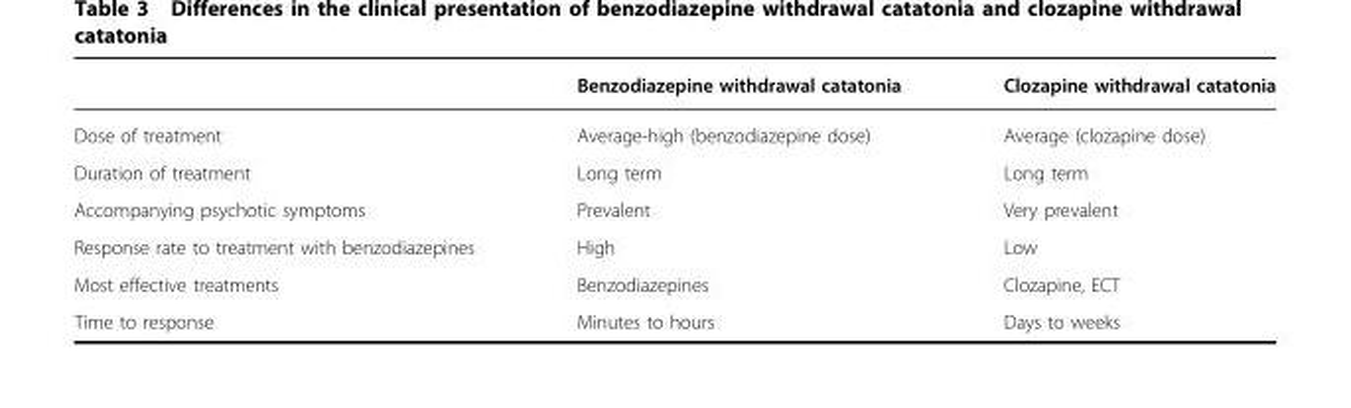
<table><thead><tr><td></td><td>Benzodiazepine withdrawal catatonia</td><td>Clozapine withdrawal catatonia</td></tr></thead><tbody><tr><td>Dose of treatment</td><td>Average-high (benzodiazepine dose)</td><td>Average (clozapine dose)</td></tr><tr><td>Duration of treatment</td><td>Long term</td><td>Long term</td></tr><tr><td>Accompanying psychotic symptoms</td><td>Prevalent</td><td>Very prevalent</td></tr><tr><td>Response rate to treatment with benzodiazepines</td><td>High</td><td>Low</td></tr><tr><td>Most effective treatments</td><td>Benzodiazepines</td><td>Clozapine, ECT</td></tr><tr><td>Time to response</td><td>Minutes to hours</td><td>Days to weeks</td></tr></tbody></table>